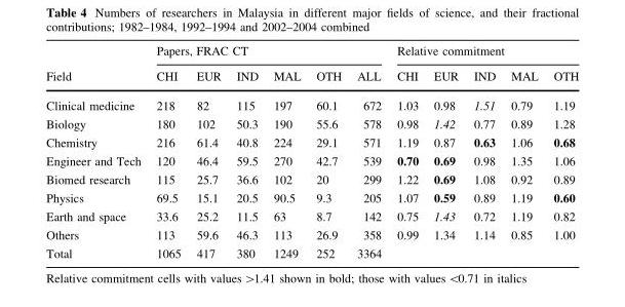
<table><thead><tr><td rowspan="2">Field</td><td colspan="6">Papers, FRAC CT</td><td colspan="5">Relative commitment</td></tr><tr><td>CHI</td><td>EUR</td><td>IND</td><td>MAL</td><td>OTH</td><td>ALL</td><td>CHI</td><td>EUR</td><td>IND</td><td>MAL</td><td>OTH</td></tr></thead><tbody><tr><td>Clinical medicine</td><td>218</td><td>82</td><td>115</td><td>197</td><td>60.1</td><td>672</td><td>1.03</td><td>0.98</td><td>1.51</td><td>0.79</td><td>1.19</td></tr><tr><td>Biology</td><td>180</td><td>102</td><td>50.3</td><td>190</td><td>55.6</td><td>578</td><td>0.98</td><td>1.42</td><td>0.77</td><td>0.89</td><td>1.28</td></tr><tr><td>Chemistry</td><td>216</td><td>61.4</td><td>40.8</td><td>224</td><td>29.1</td><td>571</td><td>1.19</td><td>0.87</td><td>0.63</td><td>1.06</td><td>0.68</td></tr><tr><td>Engineer and Tech</td><td>120</td><td>46.4</td><td>59.5</td><td>270</td><td>42.7</td><td>539</td><td>0.70</td><td>0.69</td><td>0.98</td><td>1.35</td><td>1.06</td></tr><tr><td>Biomed research</td><td>115</td><td>25.7</td><td>36.6</td><td>102</td><td>20</td><td>299</td><td>1.22</td><td>0.69</td><td>1.08</td><td>0.92</td><td>0.89</td></tr><tr><td>Physics</td><td>69.5</td><td>15.1</td><td>20.5</td><td>90.5</td><td>9.3</td><td>205</td><td>1.07</td><td>0.59</td><td>0.89</td><td>1.19</td><td>0.60</td></tr><tr><td>Earth and space</td><td>33.6</td><td>25.2</td><td>11.5</td><td>63</td><td>8.7</td><td>142</td><td>0.75</td><td>1.43</td><td>0.72</td><td>1.19</td><td>0.82</td></tr><tr><td>Others</td><td>113</td><td>59.6</td><td>46.3</td><td>113</td><td>26.9</td><td>358</td><td>0.99</td><td>1.34</td><td>1.14</td><td>0.85</td><td>1.00</td></tr><tr><td>Total</td><td>1065</td><td>417</td><td>380</td><td>1249</td><td>252</td><td>3364</td><td></td><td></td><td></td><td></td><td></td></tr></tbody></table>